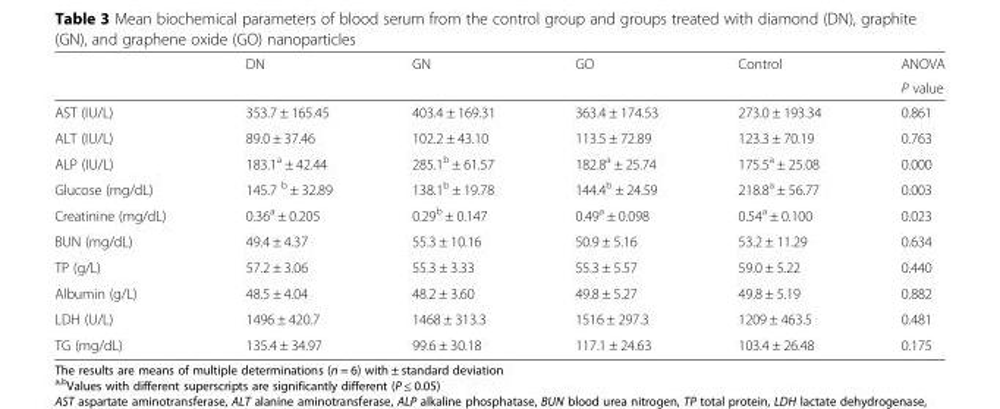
<table><thead><tr><td rowspan="2"></td><td rowspan="2">DN</td><td rowspan="2">GN</td><td rowspan="2">GO</td><td rowspan="2">Control</td><td rowspan="2">ANOVA P value</td></tr><tr></tr></thead><tbody><tr><td>AST (IU/L)</td><td>353.7 ± 165.45</td><td>403.4 ± 169.31</td><td>363.4 ± 174.53</td><td>273.0 ± 193.34</td><td>0.861</td></tr><tr><td>ALT (IU/L)</td><td>89.0 ± 37.46</td><td>102.2 ± 43.10</td><td>113.5 ± 72.89</td><td>123.3 ± 70.19</td><td>0.763</td></tr><tr><td>ALP (IU/L)</td><td>183.1<sup>a</sup> ± 42.44</td><td>285.1<sup>b</sup> ± 61.57</td><td>182.8<sup>a</sup> ± 25.74</td><td>175.5<sup>a</sup> ± 25.08</td><td>0.000</td></tr><tr><td>Glucose (mg/dL)</td><td>145.7 <sup>b</sup> ± 32.89</td><td>138.1<sup>b</sup> ± 19.78</td><td>144.4<sup>b</sup> ± 24.59</td><td>218.8<sup>a</sup> ± 56.77</td><td>0.003</td></tr><tr><td>Creatinine (mg/dL)</td><td>0.36<sup>a</sup> ± 0.205</td><td>0.29<sup>b</sup> ± 0.147</td><td>0.49<sup>a</sup> ± 0.098</td><td>0.54<sup>a</sup> ± 0.100</td><td>0.023</td></tr><tr><td>BUN (mg/dL)</td><td>49.4 ± 4.37</td><td>55.3 ± 10.16</td><td>50.9 ± 5.16</td><td>53.2 ± 11.29</td><td>0.634</td></tr><tr><td>TP (g/L)</td><td>57.2 ± 3.06</td><td>55.3 ± 3.33</td><td>55.3 ± 5.57</td><td>59.0 ± 5.22</td><td>0.440</td></tr><tr><td>Albumin (g/L)</td><td>48.5 ± 4.04</td><td>48.2 ± 3.60</td><td>49.8 ± 5.27</td><td>49.8 ± 5.19</td><td>0.882</td></tr><tr><td>LDH (U/L)</td><td>1496 ± 420.7</td><td>1468 ± 313.3</td><td>1516 ± 297.3</td><td>1209 ± 463.5</td><td>0.481</td></tr><tr><td>TG (mg/dL)</td><td>135.4 ± 34.97</td><td>99.6 ± 30.18</td><td>117.1 ± 24.63</td><td>103.4 ± 26.48</td><td>0.175</td></tr></tbody></table>